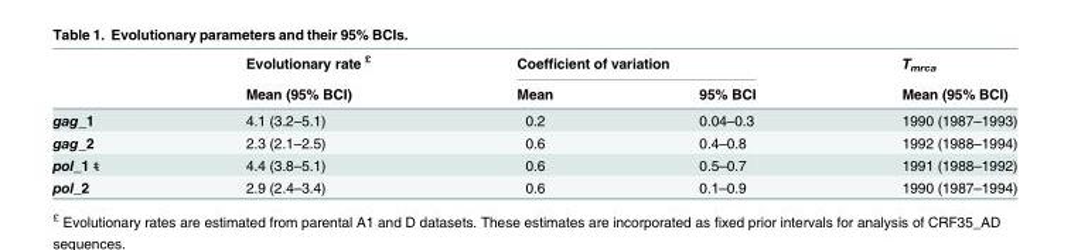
<table><thead><tr><td rowspan="2"></td><td rowspan="2">Evolutionary rate <sup>£</sup> Mean (95% BCI)</td><td colspan="2">Coefficient of variation</td><td rowspan="2">T<sub>mrca</sub> Mean (95% BCI)</td></tr><tr><td>Mean</td><td>95% BCI</td></tr></thead><tbody><tr><td>gag_1</td><td>4.1 (3.2–5.1)</td><td>0.2</td><td>0.04–0.3</td><td>1990 (1987–1993)</td></tr><tr><td>gag_2</td><td>2.3 (2.1–2.5)</td><td>0.6</td><td>0.4–0.8</td><td>1992 (1988–1994)</td></tr><tr><td>pol_1 ᵵ</td><td>4.4 (3.8–5.1)</td><td>0.6</td><td>0.5–0.7</td><td>1991 (1988–1992)</td></tr><tr><td>pol_2</td><td>2.9 (2.4–3.4)</td><td>0.6</td><td>0.1–0.9</td><td>1990 (1987–1994)</td></tr></tbody></table>